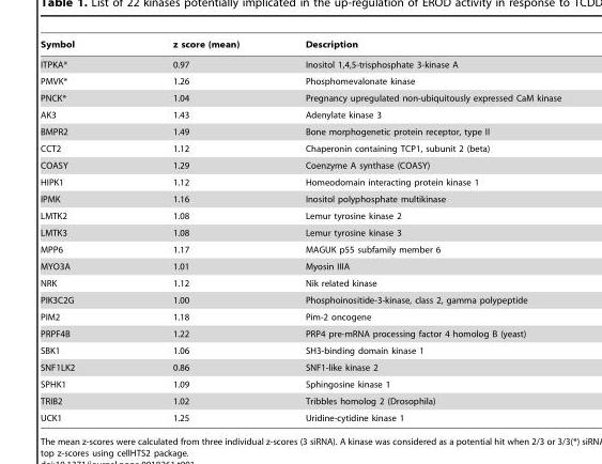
<table><thead><tr><td>Symbol</td><td>z score (mean)</td><td>Description</td></tr></thead><tbody><tr><td>ITPKA*</td><td>0.97</td><td>Inositol 1,4,5-trisphosphate 3-kinase A</td></tr><tr><td>PMVK*</td><td>1.26</td><td>Phosphomevalonate kinase</td></tr><tr><td>PNCK*</td><td>1.04</td><td>Pregnancy upregulated non-ubiquitously expressed CaM kinase</td></tr><tr><td>AK3</td><td>1.43</td><td>Adenylate kinase 3</td></tr><tr><td>BMPR2</td><td>1.49</td><td>Bone morphogenetic protein receptor, type II</td></tr><tr><td>CCT2</td><td>1.12</td><td>Chaperonin containing TCP1, subunit 2 (beta)</td></tr><tr><td>COASY</td><td>1.29</td><td>Coenzyme A synthase (COASY)</td></tr><tr><td>HIPK1</td><td>1.12</td><td>Homeodomain interacting protein kinase 1</td></tr><tr><td>IPMK</td><td>1.16</td><td>Inositol polyphosphate multikinase</td></tr><tr><td>LMTK2</td><td>1.08</td><td>Lemur tyrosine kinase 2</td></tr><tr><td>LMTK3</td><td>1.08</td><td>Lemur tyrosine kinase 3</td></tr><tr><td>MPP6</td><td>1.17</td><td>MAGUK p55 subfamily member 6</td></tr><tr><td>MYO3A</td><td>1.01</td><td>Myosin IIIA</td></tr><tr><td>NRK</td><td>1.12</td><td>Nik related kinase</td></tr><tr><td>PIK3C2G</td><td>1.00</td><td>Phosphoinositide-3-kinase, class 2, gamma polypeptide</td></tr><tr><td>PIM2</td><td>1.18</td><td>Pim-2 oncogene</td></tr><tr><td>PRPF4B</td><td>1.22</td><td>PRP4 pre-mRNA processing factor 4 homolog B (yeast)</td></tr><tr><td>SBK1</td><td>1.06</td><td>SH3-binding domain kinase 1</td></tr><tr><td>SNF1LK2</td><td>0.86</td><td>SNF1-like kinase 2</td></tr><tr><td>SPHK1</td><td>1.09</td><td>Sphingosine kinase 1</td></tr><tr><td>TRIB2</td><td>1.02</td><td>Tribbles homolog 2 (Drosophila)</td></tr><tr><td>UCK1</td><td>1.25</td><td>Uridine-cytidine kinase 1</td></tr></tbody></table>